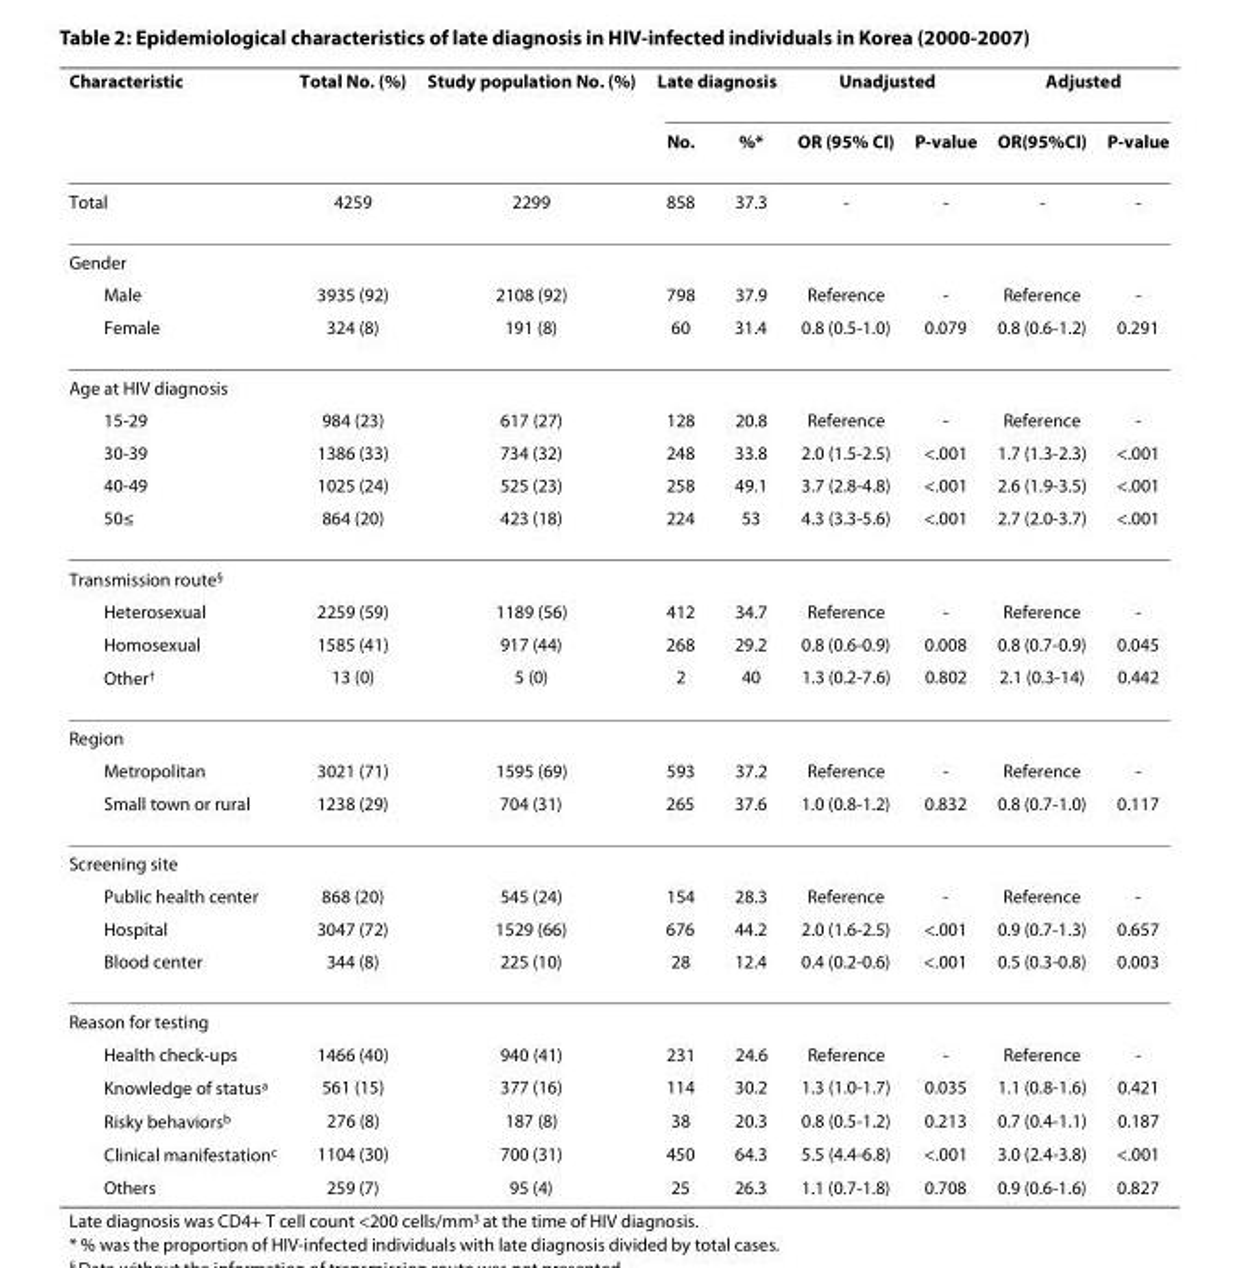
<table><thead><tr><td rowspan="2">Characteristic</td><td rowspan="2">Total No. (%)</td><td rowspan="2">Study population No. (%)</td><td colspan="2">Late diagnosis</td><td colspan="2">Unadjusted</td><td colspan="2">Adjusted</td></tr><tr><td>No.</td><td>%*</td><td>OR (95% CI)</td><td>P-value</td><td>OR(95%CI)</td><td>P-value</td></tr></thead><tbody><tr><td>Total</td><td>4259</td><td>2299</td><td>858</td><td>37.3</td><td>-</td><td>-</td><td>-</td><td>-</td></tr><tr><td colspan="9">Gender</td></tr><tr><td>Male</td><td>3935 (92)</td><td>2108 (92)</td><td>798</td><td>37.9</td><td>Reference</td><td>-</td><td>Reference</td><td>-</td></tr><tr><td>Female</td><td>324 (8)</td><td>191 (8)</td><td>60</td><td>31.4</td><td>0.8 (0.5-1.0)</td><td>0.079</td><td>0.8 (0.6-1.2)</td><td>0.291</td></tr><tr><td colspan="9">Age at HIV diagnosis</td></tr><tr><td>15-29</td><td>984 (23)</td><td>617 (27)</td><td>128</td><td>20.8</td><td>Reference</td><td>-</td><td>Reference</td><td>-</td></tr><tr><td>30-39</td><td>1386 (33)</td><td>734 (32)</td><td>248</td><td>33.8</td><td>2.0 (1.5-2.5)</td><td>&lt;.001</td><td>1.7 (1.3-2.3)</td><td>&lt;.001</td></tr><tr><td>40-49</td><td>1025 (24)</td><td>525 (23)</td><td>258</td><td>49.1</td><td>3.7 (2.8-4.8)</td><td>&lt;.001</td><td>2.6 (1.9-3.5)</td><td>&lt;.001</td></tr><tr><td>50≤</td><td>864 (20)</td><td>423 (18)</td><td>224</td><td>53</td><td>4.3 (3.3-5.6)</td><td>&lt;.001</td><td>2.7 (2.0-3.7)</td><td>&lt;.001</td></tr><tr><td colspan="9">Transmission route<sup>§</sup></td></tr><tr><td>Heterosexual</td><td>2259 (59)</td><td>1189 (56)</td><td>412</td><td>34.7</td><td>Reference</td><td>-</td><td>Reference</td><td>-</td></tr><tr><td>Homosexual</td><td>1585 (41)</td><td>917 (44)</td><td>268</td><td>29.2</td><td>0.8 (0.6-0.9)</td><td>0.008</td><td>0.8 (0.7-0.9)</td><td>0.045</td></tr><tr><td>Other<sup>†</sup></td><td>13 (0)</td><td>5 (0)</td><td>2</td><td>40</td><td>1.3 (0.2-7.6)</td><td>0.802</td><td>2.1 (0.3-14)</td><td>0.442</td></tr><tr><td colspan="9">Region</td></tr><tr><td>Metropolitan</td><td>3021 (71)</td><td>1595 (69)</td><td>593</td><td>37.2</td><td>Reference</td><td>-</td><td>Reference</td><td>-</td></tr><tr><td>Small town or rural</td><td>1238 (29)</td><td>704 (31)</td><td>265</td><td>37.6</td><td>1.0 (0.8-1.2)</td><td>0.832</td><td>0.8 (0.7-1.0)</td><td>0.117</td></tr><tr><td colspan="9">Screening site</td></tr><tr><td>Public health center</td><td>868 (20)</td><td>545 (24)</td><td>154</td><td>28.3</td><td>Reference</td><td>-</td><td>Reference</td><td>-</td></tr><tr><td>Hospital</td><td>3047 (72)</td><td>1529 (66)</td><td>676</td><td>44.2</td><td>2.0 (1.6-2.5)</td><td>&lt;.001</td><td>0.9 (0.7-1.3)</td><td>0.657</td></tr><tr><td>Blood center</td><td>344 (8)</td><td>225 (10)</td><td>28</td><td>12.4</td><td>0.4 (0.2-0.6)</td><td>&lt;.001</td><td>0.5 (0.3-0.8)</td><td>0.003</td></tr><tr><td colspan="9">Reason for testing</td></tr><tr><td>Health check-ups</td><td>1466 (40)</td><td>940 (41)</td><td>231</td><td>24.6</td><td>Reference</td><td>-</td><td>Reference</td><td>-</td></tr><tr><td>Knowledge of status<sup>a</sup></td><td>561 (15)</td><td>377 (16)</td><td>114</td><td>30.2</td><td>1.3 (1.0-1.7)</td><td>0.035</td><td>1.1 (0.8-1.6)</td><td>0.421</td></tr><tr><td>Risky behaviors<sup>b</sup></td><td>276 (8)</td><td>187 (8)</td><td>38</td><td>20.3</td><td>0.8 (0.5-1.2)</td><td>0.213</td><td>0.7 (0.4-1.1)</td><td>0.187</td></tr><tr><td>Clinical manifestation<sup>c</sup></td><td>1104 (30)</td><td>700 (31)</td><td>450</td><td>64.3</td><td>5.5 (4.4-6.8)</td><td>&lt;.001</td><td>3.0 (2.4-3.8)</td><td>&lt;.001</td></tr><tr><td>Others</td><td>259 (7)</td><td>95 (4)</td><td>25</td><td>26.3</td><td>1.1 (0.7-1.8)</td><td>0.708</td><td>0.9 (0.6-1.6)</td><td>0.827</td></tr></tbody></table>